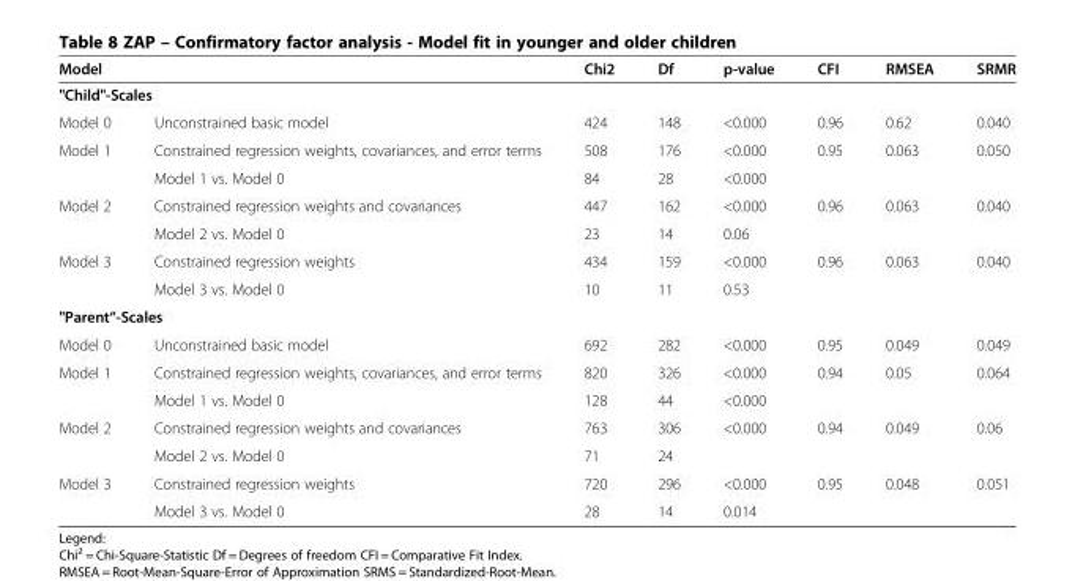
<table><thead><tr><td rowspan="2" colspan="2">Model &quot;Child&quot;-Scales</td><td rowspan="3">Chi2 424</td><td rowspan="3">Df 148</td><td rowspan="3">p-value &lt;0.000</td><td rowspan="3">CFI 0.96</td><td rowspan="3">RMSEA 0.62</td><td rowspan="3">SRMR 0.040</td></tr><tr></tr><tr><td>Model 0</td><td>Unconstrained basic model</td></tr></thead><tbody><tr><td rowspan="2">Model 1</td><td>Constrained regression weights, covariances, and error terms</td><td>508</td><td>176</td><td>&lt;0.000</td><td>0.95</td><td>0.063</td><td>0.050</td></tr><tr><td>Model 1 vs. Model 0</td><td>84</td><td>28</td><td>&lt;0.000</td><td></td><td></td><td></td></tr><tr><td rowspan="2">Model 2</td><td>Constrained regression weights and covariances</td><td>447</td><td>162</td><td>&lt;0.000</td><td>0.96</td><td>0.063</td><td>0.040</td></tr><tr><td>Model 2 vs. Model 0</td><td>23</td><td>14</td><td>0.06</td><td></td><td></td><td></td></tr><tr><td rowspan="2">Model 3</td><td>Constrained regression weights</td><td>434</td><td>159</td><td>&lt;0.000</td><td>0.96</td><td>0.063</td><td>0.040</td></tr><tr><td>Model 3 vs. Model 0</td><td>10</td><td>11</td><td>0.53</td><td></td><td></td><td></td></tr><tr><td colspan="8">&quot;Parent“-Scales</td></tr><tr><td>Model 0</td><td>Unconstrained basic model</td><td>692</td><td>282</td><td>&lt;0.000</td><td>0.95</td><td>0.049</td><td>0.049</td></tr><tr><td rowspan="2">Model 1</td><td>Constrained regression weights, covariances, and error terms</td><td>820</td><td>326</td><td>&lt;0.000</td><td>0.94</td><td>0.05</td><td>0.064</td></tr><tr><td>Model 1 vs. Model 0</td><td>128</td><td>44</td><td>&lt;0.000</td><td></td><td></td><td></td></tr><tr><td rowspan="2">Model 2</td><td>Constrained regression weights and covariances</td><td>763</td><td>306</td><td>&lt;0.000</td><td>0.94</td><td>0.049</td><td>0.06</td></tr><tr><td>Model 2 vs. Model 0</td><td>71</td><td>24</td><td></td><td></td><td></td><td></td></tr><tr><td rowspan="2">Model 3</td><td>Constrained regression weights</td><td>720</td><td>296</td><td>&lt;0.000</td><td>0.95</td><td>0.048</td><td>0.051</td></tr><tr><td>Model 3 vs. Model 0</td><td>28</td><td>14</td><td>0.014</td><td></td><td></td><td></td></tr></tbody></table>